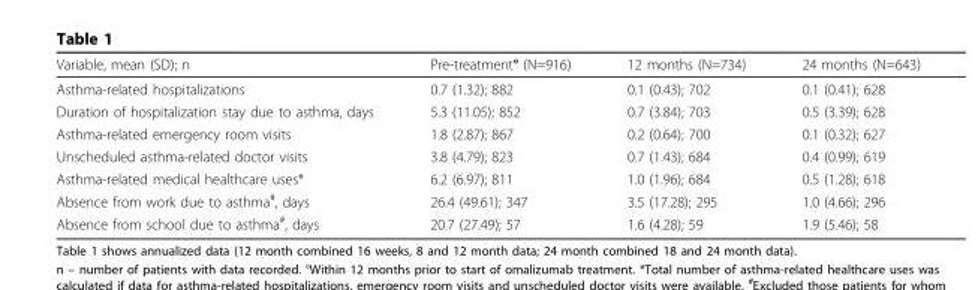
<table><thead><tr><td>Variable, mean (SD); n</td><td>Pre-treatment° (N=916)</td><td>12 months (N=734)</td><td>24 months (N=643)</td></tr></thead><tbody><tr><td>Asthma-related hospitalizations</td><td>0.7 (1.32); 882</td><td>0.1 (0.43); 702</td><td>0.1 (0.41); 628</td></tr><tr><td>Duration of hospitalization stay due to asthma, days</td><td>5.3 (11.05); 852</td><td>0.7 (3.84); 703</td><td>0.5 (3.39); 628</td></tr><tr><td>Asthma-related emergency room visits</td><td>1.8 (2.87); 867</td><td>0.2 (0.64); 700</td><td>0.1 (0.32); 627</td></tr><tr><td>Unscheduled asthma-related doctor visits</td><td>3.8 (4.79); 823</td><td>0.7 (1.43); 684</td><td>0.4 (0.99); 619</td></tr><tr><td>Asthma-related medical healthcare uses*</td><td>6.2 (6.97); 811</td><td>1.0 (1.96); 684</td><td>0.5 (1.28); 618</td></tr><tr><td>Absence from work due to asthma<sup>#</sup>, days</td><td>26.4 (49.61); 347</td><td>3.5 (17.28); 295</td><td>1.0 (4.66); 296</td></tr><tr><td>Absence from school due to asthma<sup>#</sup>, days</td><td>20.7 (27.49); 57</td><td>1.6 (4.28); 59</td><td>1.9 (5.46); 58</td></tr></tbody></table>